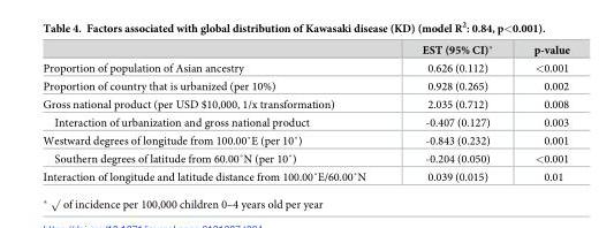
<table><thead><tr><td></td><td>EST (95% CI)*</td><td>p-value</td></tr></thead><tbody><tr><td>Proportion of population of Asian ancestry</td><td>0.626 (0.112)</td><td>&lt;0.001</td></tr><tr><td>Proportion of country that is urbanized (per 10%)</td><td>0.928 (0.265)</td><td>0.002</td></tr><tr><td>Gross national product (per USD $10,000, 1/x transformation)</td><td>2.035 (0.712)</td><td>0.008</td></tr><tr><td>Interaction of urbanization and gross national product</td><td>-0.407 (0.127)</td><td>0.003</td></tr><tr><td>Westward degrees of longitude from 100.00˚E (per 10˚)</td><td>-0.843 (0.232)</td><td>0.001</td></tr><tr><td>Southern degrees of latitude from 60.00˚N (per 10˚)</td><td>-0.204 (0.050)</td><td>&lt;0.001</td></tr><tr><td>Interaction of longitude and latitude distance from 100.00˚E/60.00˚N</td><td>0.039 (0.015)</td><td>0.01</td></tr></tbody></table>